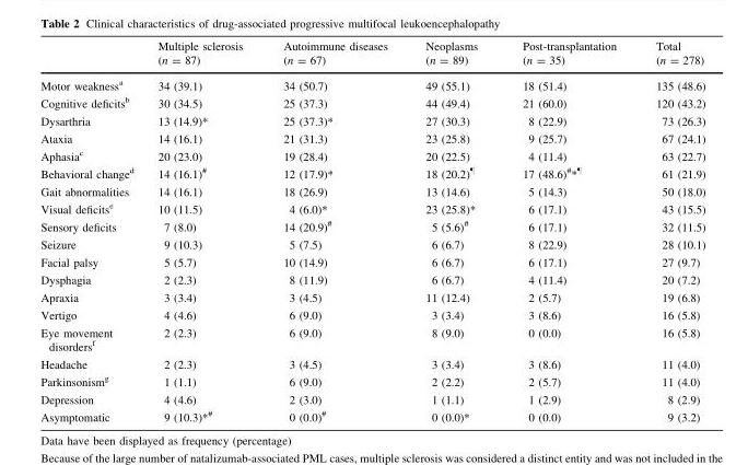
<table><thead><tr><td></td><td>Multiple sclerosis (n = 87)</td><td>Autoimmune diseases (n = 67)</td><td>Neoplasms (n = 89)</td><td>Post-transplantation (n = 35)</td><td>Total (n = 278)</td></tr></thead><tbody><tr><td>Motor weakness<sup>a</sup></td><td>34 (39.1)</td><td>34 (50.7)</td><td>49 (55.1)</td><td>18 (51.4)</td><td>135 (48.6)</td></tr><tr><td>Cognitive deficits<sup>b</sup></td><td>30 (34.5)</td><td>25 (37.3)</td><td>44 (49.4)</td><td>21 (60.0)</td><td>120 (43.2)</td></tr><tr><td>Dysarthria</td><td>13 (14.9)*</td><td>25 (37.3)*</td><td>27 (30.3)</td><td>8 (22.9)</td><td>73 (26.3)</td></tr><tr><td>Ataxia</td><td>14 (16.1)</td><td>21 (31.3)</td><td>23 (25.8)</td><td>9 (25.7)</td><td>67 (24.1)</td></tr><tr><td>Aphasia<sup>c</sup></td><td>20 (23.0)</td><td>19 (28.4)</td><td>20 (22.5)</td><td>4 (11.4)</td><td>63 (22.7)</td></tr><tr><td>Behavioral change<sup>d</sup></td><td>14 (16.1)<sup>#</sup></td><td>12 (17.9)*</td><td>18 (20.2)<sup>¶</sup></td><td>17 (48.6)<sup>#</sup>*<sup>¶</sup></td><td>61 (21.9)</td></tr><tr><td>Gait abnormalities</td><td>14 (16.1)</td><td>18 (26.9)</td><td>13 (14.6)</td><td>5 (14.3)</td><td>50 (18.0)</td></tr><tr><td>Visual deficits<sup>e</sup></td><td>10 (11.5)</td><td>4 (6.0)*</td><td>23 (25.8)*</td><td>6 (17.1)</td><td>43 (15.5)</td></tr><tr><td>Sensory deficits</td><td>7 (8.0)</td><td>14 (20.9)<sup>#</sup></td><td>5 (5.6)<sup>#</sup></td><td>6 (17.1)</td><td>32 (11.5)</td></tr><tr><td>Seizure</td><td>9 (10.3)</td><td>5 (7.5)</td><td>6 (6.7)</td><td>8 (22.9)</td><td>28 (10.1)</td></tr><tr><td>Facial palsy</td><td>5 (5.7)</td><td>10 (14.9)</td><td>6 (6.7)</td><td>6 (17.1)</td><td>27 (9.7)</td></tr><tr><td>Dysphagia</td><td>2 (2.3)</td><td>8 (11.9)</td><td>6 (6.7)</td><td>4 (11.4)</td><td>20 (7.2)</td></tr><tr><td>Apraxia</td><td>3 (3.4)</td><td>3 (4.5)</td><td>11 (12.4)</td><td>2 (5.7)</td><td>19 (6.8)</td></tr><tr><td>Vertigo</td><td>4 (4.6)</td><td>6 (9.0)</td><td>3 (3.4)</td><td>3 (8.6)</td><td>16 (5.8)</td></tr><tr><td>Eye movement disorders<sup>f</sup></td><td>2 (2.3)</td><td>6 (9.0)</td><td>8 (9.0)</td><td>0 (0.0)</td><td>16 (5.8)</td></tr><tr><td>Headache</td><td>2 (2.3)</td><td>3 (4.5)</td><td>3 (3.4)</td><td>3 (8.6)</td><td>11 (4.0)</td></tr><tr><td>Parkinsonism<sup>g</sup></td><td>1 (1.1)</td><td>6 (9.0)</td><td>2 (2.2)</td><td>2 (5.7)</td><td>11 (4.0)</td></tr><tr><td>Depression</td><td>4 (4.6)</td><td>2 (3.0)</td><td>1 (1.1)</td><td>1 (2.9)</td><td>8 (2.9)</td></tr><tr><td>Asymptomatic</td><td>9 (10.3)*<sup>#</sup></td><td>0 (0.0)<sup>#</sup></td><td>0 (0.0)*</td><td>0 (0.0)</td><td>9 (3.2)</td></tr></tbody></table>